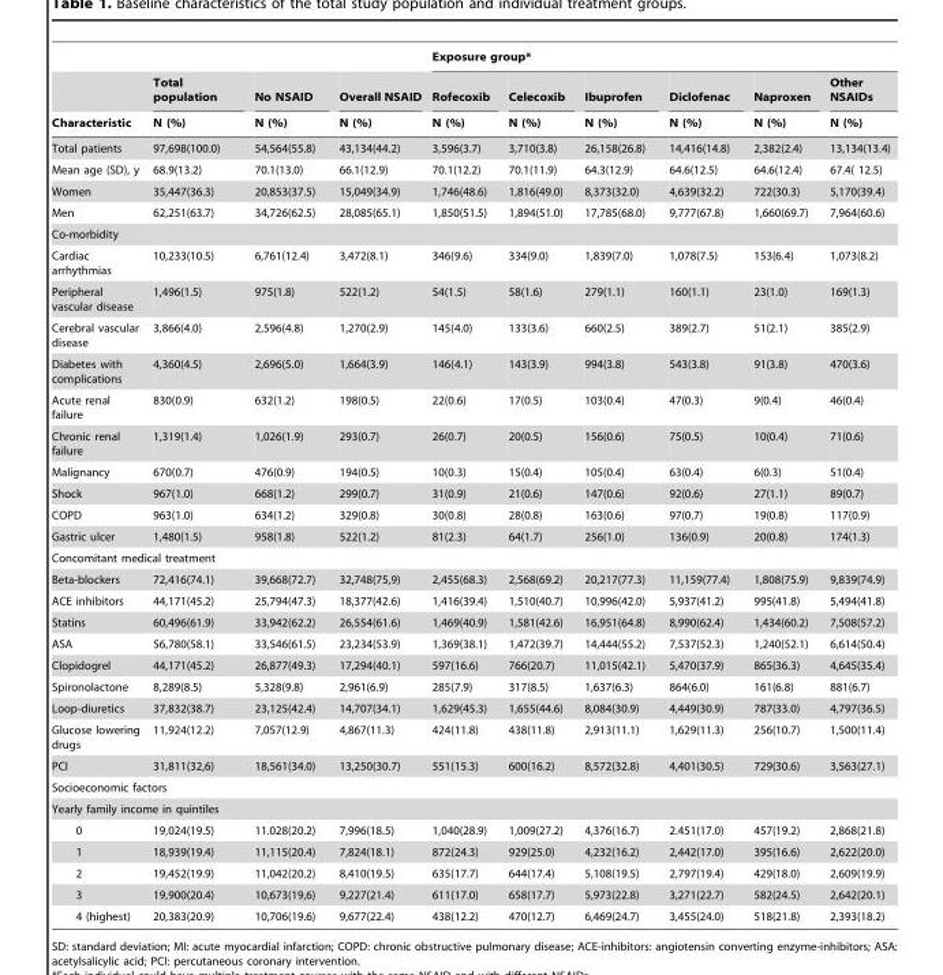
<table><thead><tr><td rowspan="3">Characteristic</td><td rowspan="3">Total population N (%)</td><td rowspan="3">No NSAID N (%)</td><td rowspan="3">Overall NSAID N (%)</td><td colspan="6">Exposure group*</td></tr><tr><td rowspan="2">Rofecoxib N (%)</td><td rowspan="2">Celecoxib N (%)</td><td rowspan="2">Ibuprofen N (%)</td><td rowspan="2">Diclofenac N (%)</td><td rowspan="2">Naproxen N (%)</td><td rowspan="2">Other NSAIDs N (%)</td></tr><tr></tr></thead><tbody><tr><td>Total patients</td><td>97,698(100.0)</td><td>54,564(55.8)</td><td>43,134(44.2)</td><td>3,596(3.7)</td><td>3,710(3.8)</td><td>26,158(26.8)</td><td>14,416(14.8)</td><td>2,382(2.4)</td><td>13,134(13.4)</td></tr><tr><td>Mean age (SD), y</td><td>68.9(13.2)</td><td>70.1(13.0)</td><td>66.1(12.9)</td><td>70.1(12.2)</td><td>70.1(11.9)</td><td>64.3(12.9)</td><td>64.6(12.5)</td><td>64.6(12.4)</td><td>67.4( 12.5)</td></tr><tr><td>Women</td><td>35,447(36.3)</td><td>20,853(37.5)</td><td>15,049(34.9)</td><td>1,746(48.6)</td><td>1,816(49.0)</td><td>8,373(32.0)</td><td>4,639(32.2)</td><td>722(30.3)</td><td>5,170(39.4)</td></tr><tr><td>Men</td><td>62,251(63.7)</td><td>34,726(62.5)</td><td>28,085(65.1)</td><td>1,850(51.5)</td><td>1,894(51.0)</td><td>17,785(68.0)</td><td>9,777(67.8)</td><td>1,660(69.7)</td><td>7,964(60.6)</td></tr><tr><td colspan="10">Co-morbidity</td></tr><tr><td>Cardiac arrhythmias</td><td>10,233(10.5)</td><td>6,761(12.4)</td><td>3,472(8.1)</td><td>346(9.6)</td><td>334(9.0)</td><td>1,839(7.0)</td><td>1,078(7.5)</td><td>153(6.4)</td><td>1,073(8.2)</td></tr><tr><td>Peripheral vascular disease</td><td>1,496(1.5)</td><td>975(1.8)</td><td>522(1.2)</td><td>54(1.5)</td><td>58(1.6)</td><td>279(1.1)</td><td>160(1.1)</td><td>23(1.0)</td><td>169(1.3)</td></tr><tr><td>Cerebral vascular disease</td><td>3,866(4.0)</td><td>2,596(4.8)</td><td>1,270(2.9)</td><td>145(4.0)</td><td>133(3.6)</td><td>660(2.5)</td><td>389(2.7)</td><td>51(2.1)</td><td>385(2.9)</td></tr><tr><td>Diabetes with complications</td><td>4,360(4.5)</td><td>2,696(5.0)</td><td>1,664(3.9)</td><td>146(4.1)</td><td>143(3.9)</td><td>994(3.8)</td><td>543(3.8)</td><td>91(3.8)</td><td>470(3.6)</td></tr><tr><td>Acute renal failure</td><td>830(0.9)</td><td>632(1.2)</td><td>198(0.5)</td><td>22(0.6)</td><td>17(0.5)</td><td>103(0.4)</td><td>47(0.3)</td><td>9(0.4)</td><td>46(0.4)</td></tr><tr><td>Chronic renal failure</td><td>1,319(1.4)</td><td>1,026(1.9)</td><td>293(0.7)</td><td>26(0.7)</td><td>20(0.5)</td><td>156(0.6)</td><td>75(0.5)</td><td>10(0.4)</td><td>71(0.6)</td></tr><tr><td>Malignancy</td><td>670(0.7)</td><td>476(0.9)</td><td>194(0.5)</td><td>10(0.3)</td><td>15(0.4)</td><td>105(0.4)</td><td>63(0.4)</td><td>6(0.3)</td><td>51(0.4)</td></tr><tr><td>Shock</td><td>967(1.0)</td><td>668(1.2)</td><td>299(0.7)</td><td>31(0.9)</td><td>21(0.6)</td><td>147(0.6)</td><td>92(0.6)</td><td>27(1.1)</td><td>89(0.7)</td></tr><tr><td>COPD</td><td>963(1.0)</td><td>634(1.2)</td><td>329(0.8)</td><td>30(0.8)</td><td>28(0.8)</td><td>163(0.6)</td><td>97(0.7)</td><td>19(0.8)</td><td>117(0.9)</td></tr><tr><td>Gastric ulcer</td><td>1,480(1.5)</td><td>958(1.8)</td><td>522(1.2)</td><td>81(2.3)</td><td>64(1.7)</td><td>256(1.0)</td><td>136(0.9)</td><td>20(0.8)</td><td>174(1.3)</td></tr><tr><td colspan="10">Concomitant medical treatment</td></tr><tr><td>Beta-blockers</td><td>72,416(74.1)</td><td>39,668(72.7)</td><td>32,748(75,9)</td><td>2,455(68.3)</td><td>2,568(69.2)</td><td>20,217(77.3)</td><td>11,159(77.4)</td><td>1,808(75.9)</td><td>9,839(74.9)</td></tr><tr><td>ACE inhibitors</td><td>44,171(45.2)</td><td>25,794(47.3)</td><td>18,377(42.6)</td><td>1,416(39.4)</td><td>1,510(40.7)</td><td>10,996(42.0)</td><td>5,937(41.2)</td><td>995(41.8)</td><td>5,494(41.8)</td></tr><tr><td>Statins</td><td>60,496(61.9)</td><td>33,942(62.2)</td><td>26,554(61.6)</td><td>1,469(40.9)</td><td>1,581(42.6)</td><td>16,951(64.8)</td><td>8,990(62.4)</td><td>1,434(60.2)</td><td>7,508(57.2)</td></tr><tr><td>ASA</td><td>56,780(58.1)</td><td>33,546(61.5)</td><td>23,234(53.9)</td><td>1,369(38.1)</td><td>1,472(39.7)</td><td>14,444(55.2)</td><td>7,537(52.3)</td><td>1,240(52.1)</td><td>6,614(50.4)</td></tr><tr><td>Clopidogrel</td><td>44,171(45.2)</td><td>26,877(49.3)</td><td>17,294(40.1)</td><td>597(16.6)</td><td>766(20.7)</td><td>11,015(42.1)</td><td>5,470(37.9)</td><td>865(36.3)</td><td>4,645(35.4)</td></tr><tr><td>Spironolactone</td><td>8,289(8.5)</td><td>5,328(9.8)</td><td>2,961(6.9)</td><td>285(7.9)</td><td>317(8.5)</td><td>1,637(6.3)</td><td>864(6.0)</td><td>161(6.8)</td><td>881(6.7)</td></tr><tr><td>Loop-diuretics</td><td>37,832(38.7)</td><td>23,125(42.4)</td><td>14,707(34.1)</td><td>1,629(45.3)</td><td>1,655(44.6)</td><td>8,084(30.9)</td><td>4,449(30.9)</td><td>787(33.0)</td><td>4,797(36.5)</td></tr><tr><td>Glucose lowering drugs</td><td>11,924(12.2)</td><td>7,057(12.9)</td><td>4,867(11.3)</td><td>424(11.8)</td><td>438(11.8)</td><td>2,913(11.1)</td><td>1,629(11.3)</td><td>256(10.7)</td><td>1,500(11.4)</td></tr><tr><td>PCI</td><td>31,811(32,6)</td><td>18,561(34.0)</td><td>13,250(30.7)</td><td>551(15.3)</td><td>600(16.2)</td><td>8,572(32.8)</td><td>4,401(30.5)</td><td>729(30.6)</td><td>3,563(27.1)</td></tr><tr><td colspan="10">Socioeconomic factors</td></tr><tr><td colspan="10">Yearly family income in quintiles</td></tr><tr><td>0</td><td>19,024(19.5)</td><td>11.028(20.2)</td><td>7,996(18.5)</td><td>1,040(28.9)</td><td>1,009(27.2)</td><td>4,376(16.7)</td><td>2.451(17.0)</td><td>457(19.2)</td><td>2,868(21.8)</td></tr><tr><td>1</td><td>18,939(19.4)</td><td>11,115(20.4)</td><td>7,824(18.1)</td><td>872(24.3)</td><td>929(25.0)</td><td>4,232(16.2)</td><td>2,442(17.0)</td><td>395(16.6)</td><td>2,622(20.0)</td></tr><tr><td>2</td><td>19,452(19.9)</td><td>11,042(20.2)</td><td>8,410(19.5)</td><td>635(17.7)</td><td>644(17.4)</td><td>5,108(19.5)</td><td>2,797(19.4)</td><td>429(18.0)</td><td>2,609(19.9)</td></tr><tr><td>3</td><td>19,900(20.4)</td><td>10,673(19,6)</td><td>9,227(21.4)</td><td>611(17.0)</td><td>658(17.7)</td><td>5,973(22.8)</td><td>3,271(22.7)</td><td>582(24.5)</td><td>2,642(20.1)</td></tr><tr><td>4 (highest)</td><td>20,383(20.9)</td><td>10,706(19.6)</td><td>9,677(22.4)</td><td>438(12.2)</td><td>470(12.7)</td><td>6,469(24.7)</td><td>3,455(24.0)</td><td>518(21.8)</td><td>2,393(18.2)</td></tr></tbody></table>